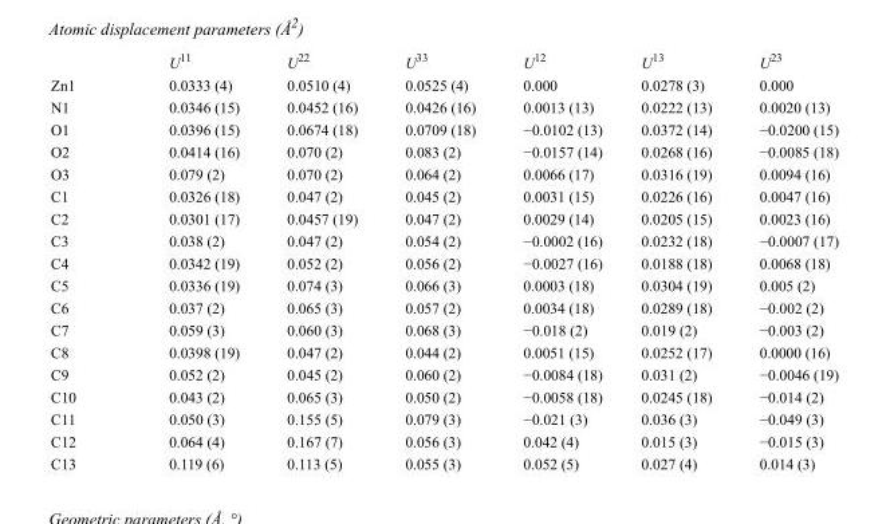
<table><thead><tr><td></td><td>U<sup>11</sup></td><td>U<sup>22</sup></td><td>U<sup>33</sup></td><td>U<sup>12</sup></td><td>U<sup>13</sup></td><td>U<sup>23</sup></td></tr></thead><tbody><tr><td>Zn1</td><td>0.0333 (4)</td><td>0.0510 (4)</td><td>0.0525 (4)</td><td>0.000</td><td>0.0278 (3)</td><td>0.000</td></tr><tr><td>N1</td><td>0.0346 (15)</td><td>0.0452 (16)</td><td>0.0426 (16)</td><td>0.0013 (13)</td><td>0.0222 (13)</td><td>0.0020 (13)</td></tr><tr><td>O1</td><td>0.0396 (15)</td><td>0.0674 (18)</td><td>0.0709 (18)</td><td>−0.0102 (13)</td><td>0.0372 (14)</td><td>−0.0200 (15)</td></tr><tr><td>O2</td><td>0.0414 (16)</td><td>0.070 (2)</td><td>0.083 (2)</td><td>−0.0157 (14)</td><td>0.0268 (16)</td><td>−0.0085 (18)</td></tr><tr><td>O3</td><td>0.079 (2)</td><td>0.070 (2)</td><td>0.064 (2)</td><td>0.0066 (17)</td><td>0.0316 (19)</td><td>0.0094 (16)</td></tr><tr><td>C1</td><td>0.0326 (18)</td><td>0.047 (2)</td><td>0.045 (2)</td><td>0.0031 (15)</td><td>0.0226 (16)</td><td>0.0047 (16)</td></tr><tr><td>C2</td><td>0.0301 (17)</td><td>0.0457 (19)</td><td>0.047 (2)</td><td>0.0029 (14)</td><td>0.0205 (15)</td><td>0.0023 (16)</td></tr><tr><td>C3</td><td>0.038 (2)</td><td>0.047 (2)</td><td>0.054 (2)</td><td>−0.0002 (16)</td><td>0.0232 (18)</td><td>−0.0007 (17)</td></tr><tr><td>C4</td><td>0.0342 (19)</td><td>0.052 (2)</td><td>0.056 (2)</td><td>−0.0027 (16)</td><td>0.0188 (18)</td><td>0.0068 (18)</td></tr><tr><td>C5</td><td>0.0336 (19)</td><td>0.074 (3)</td><td>0.066 (3)</td><td>0.0003 (18)</td><td>0.0304 (19)</td><td>0.005 (2)</td></tr><tr><td>C6</td><td>0.037 (2)</td><td>0.065 (3)</td><td>0.057 (2)</td><td>0.0034 (18)</td><td>0.0289 (18)</td><td>−0.002 (2)</td></tr><tr><td>C7</td><td>0.059 (3)</td><td>0.060 (3)</td><td>0.068 (3)</td><td>−0.018 (2)</td><td>0.019 (2)</td><td>−0.003 (2)</td></tr><tr><td>C8</td><td>0.0398 (19)</td><td>0.047 (2)</td><td>0.044 (2)</td><td>0.0051 (15)</td><td>0.0252 (17)</td><td>0.0000 (16)</td></tr><tr><td>C9</td><td>0.052 (2)</td><td>0.045 (2)</td><td>0.060 (2)</td><td>−0.0084 (18)</td><td>0.031 (2)</td><td>−0.0046 (19)</td></tr><tr><td>C10</td><td>0.043 (2)</td><td>0.065 (3)</td><td>0.050 (2)</td><td>−0.0058 (18)</td><td>0.0245 (18)</td><td>−0.014 (2)</td></tr><tr><td>C11</td><td>0.050 (3)</td><td>0.155 (5)</td><td>0.079 (3)</td><td>−0.021 (3)</td><td>0.036 (3)</td><td>−0.049 (3)</td></tr><tr><td>C12</td><td>0.064 (4)</td><td>0.167 (7)</td><td>0.056 (3)</td><td>0.042 (4)</td><td>0.015 (3)</td><td>−0.015 (3)</td></tr><tr><td>C13</td><td>0.119 (6)</td><td>0.113 (5)</td><td>0.055 (3)</td><td>0.052 (5)</td><td>0.027 (4)</td><td>0.014 (3)</td></tr></tbody></table>